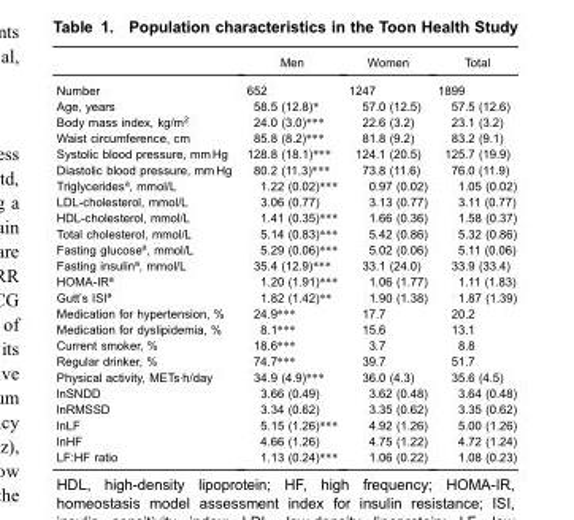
<table><thead><tr><td></td><td>Men</td><td>Women</td><td>Total</td></tr></thead><tbody><tr><td>Number</td><td>652</td><td>1247</td><td>1899</td></tr><tr><td>Age, years</td><td>58.5 (12.8)*</td><td>57.0 (12.5)</td><td>57.5 (12.6)</td></tr><tr><td>Body mass index, kg/m<sup>2</sup></td><td>24.0 (3.0)***</td><td>22.6 (3.2)</td><td>23.1 (3.2)</td></tr><tr><td>Waist circumference, cm</td><td>85.8 (8.2)***</td><td>81.8 (9.2)</td><td>83.2 (9.1)</td></tr><tr><td>Systolic blood pressure, mm Hg</td><td>128.8 (18.1)***</td><td>124.1 (20.5)</td><td>125.7 (19.9)</td></tr><tr><td>Diastolic blood pressure, mm Hg</td><td>80.2 (11.3)***</td><td>73.8 (11.6)</td><td>76.0 (11.9)</td></tr><tr><td>Triglycerides<sup>a</sup>, mmol/L</td><td>1.22 (0.02)***</td><td>0.97 (0.02)</td><td>1.05 (0.02)</td></tr><tr><td>LDL-cholesterol, mmol/L</td><td>3.06 (0.77)</td><td>3.13 (0.77)</td><td>3.11 (0.77)</td></tr><tr><td>HDL-cholesterol, mmol/L</td><td>1.41 (0.35)***</td><td>1.66 (0.36)</td><td>1.58 (0.37)</td></tr><tr><td>Total cholesterol, mmol/L</td><td>5.14 (0.83)***</td><td>5.42 (0.86)</td><td>5.32 (0.86)</td></tr><tr><td>Fasting glucose<sup>a</sup>, mmol/L</td><td>5.29 (0.06)***</td><td>5.02 (0.06)</td><td>5.11 (0.06)</td></tr><tr><td>Fasting insulin<sup>a</sup>, mmol/L</td><td>35.4 (12.9)***</td><td>33.1 (24.0)</td><td>33.9 (33.4)</td></tr><tr><td>HOMA-IR<sup>a</sup></td><td>1.20 (1.91)***</td><td>1.06 (1.77)</td><td>1.11 (1.83)</td></tr><tr><td>Gutt’s ISI<sup>a</sup></td><td>1.82 (1.42)**</td><td>1.90 (1.38)</td><td>1.87 (1.39)</td></tr><tr><td>Medication for hypertension, %</td><td>24.9***</td><td>17.7</td><td>20.2</td></tr><tr><td>Medication for dyslipidemia, %</td><td>8.1***</td><td>15.6</td><td>13.1</td></tr><tr><td>Current smoker, %</td><td>18.6***</td><td>3.7</td><td>8.8</td></tr><tr><td>Regular drinker, %</td><td>74.7***</td><td>39.7</td><td>51.7</td></tr><tr><td>Physical activity, METs·h/day</td><td>34.9 (4.9)***</td><td>36.0 (4.3)</td><td>35.6 (4.5)</td></tr><tr><td>lnSNDD</td><td>3.66 (0.49)</td><td>3.62 (0.48)</td><td>3.64 (0.48)</td></tr><tr><td>lnRMSSD</td><td>3.34 (0.62)</td><td>3.35 (0.62)</td><td>3.35 (0.62)</td></tr><tr><td>lnLF</td><td>5.15 (1.26)***</td><td>4.92 (1.26)</td><td>5.00 (1.26)</td></tr><tr><td>lnHF</td><td>4.66 (1.26)</td><td>4.75 (1.22)</td><td>4.72 (1.24)</td></tr><tr><td>LF:HF ratio</td><td>1.13 (0.24)***</td><td>1.06 (0.22)</td><td>1.08 (0.23)</td></tr></tbody></table>